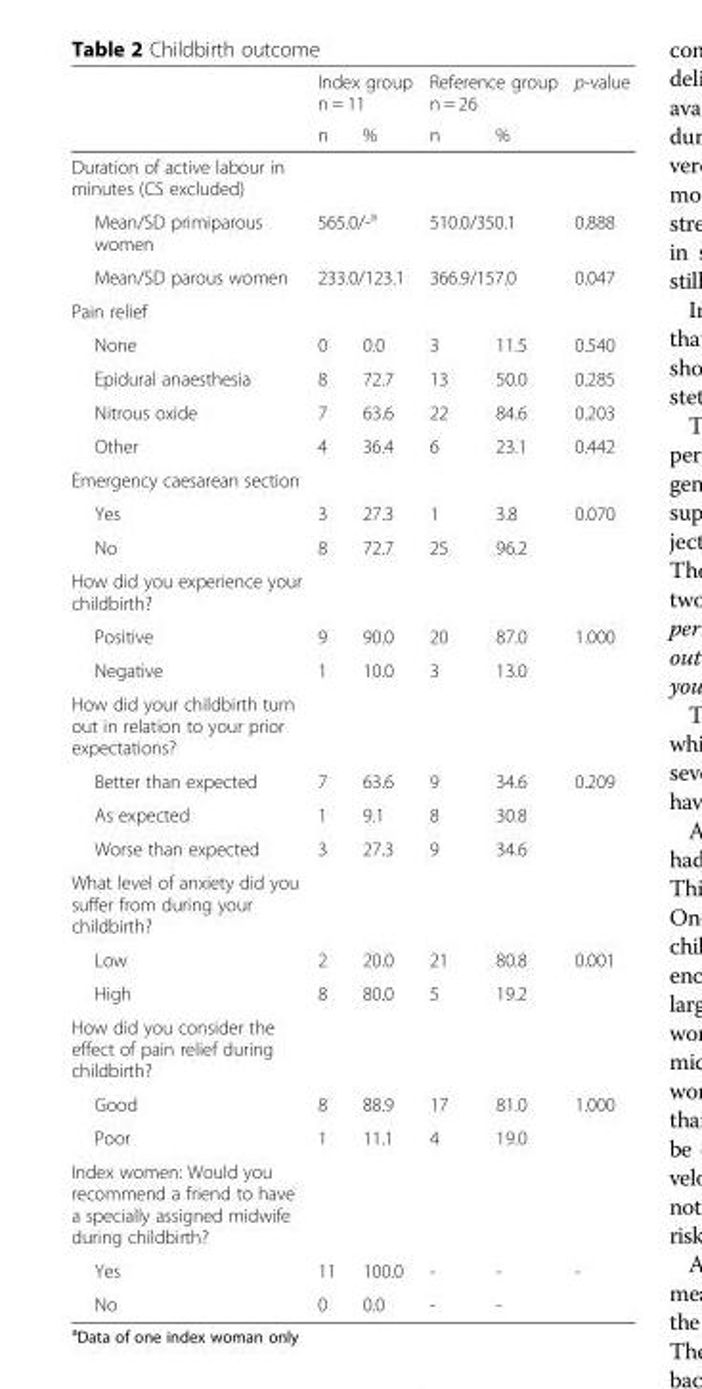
<table><thead><tr><td rowspan="2"></td><td colspan="2">Index group n = 11</td><td colspan="2">Reference group n = 26</td><td rowspan="2">p-value</td></tr><tr><td>n</td><td>%</td><td>n</td><td>%</td></tr></thead><tbody><tr><td colspan="6">Duration of active labour in minutes (CS excluded)</td></tr><tr><td>Mean/SD primiparous women</td><td colspan="2">565.0/-<sup>a</sup></td><td colspan="2">510.0/350.1</td><td>0.888</td></tr><tr><td>Mean/SD parous women</td><td colspan="2">233.0/123.1</td><td colspan="2">366.9/157.0</td><td>0.047</td></tr><tr><td colspan="6">Pain relief</td></tr><tr><td>None</td><td>0</td><td>0.0</td><td>3</td><td>11.5</td><td>0.540</td></tr><tr><td>Epidural anaesthesia</td><td>8</td><td>72.7</td><td>13</td><td>50.0</td><td>0.285</td></tr><tr><td>Nitrous oxide</td><td>7</td><td>63.6</td><td>22</td><td>84.6</td><td>0.203</td></tr><tr><td>Other</td><td>4</td><td>36.4</td><td>6</td><td>23.1</td><td>0.442</td></tr><tr><td colspan="6">Emergency caesarean section</td></tr><tr><td>Yes</td><td>3</td><td>27.3</td><td>1</td><td>3.8</td><td>0.070</td></tr><tr><td>No</td><td>8</td><td>72.7</td><td>25</td><td>96.2</td><td></td></tr><tr><td colspan="6">How did you experience your childbirth?</td></tr><tr><td>Positive</td><td>9</td><td>90.0</td><td>20</td><td>87.0</td><td>1.000</td></tr><tr><td>Negative</td><td>1</td><td>10.0</td><td>3</td><td>13.0</td><td></td></tr><tr><td colspan="6">How did your childbirth turn out in relation to your prior expectations?</td></tr><tr><td>Better than expected</td><td>7</td><td>63.6</td><td>9</td><td>34.6</td><td>0.209</td></tr><tr><td>As expected</td><td>1</td><td>9.1</td><td>8</td><td>30.8</td><td></td></tr><tr><td>Worse than expected</td><td>3</td><td>27.3</td><td>9</td><td>34.6</td><td></td></tr><tr><td colspan="6">What level of anxiety did you suffer from during your childbirth?</td></tr><tr><td>Low</td><td>2</td><td>20.0</td><td>21</td><td>80.8</td><td>0.001</td></tr><tr><td>High</td><td>8</td><td>80.0</td><td>5</td><td>19.2</td><td></td></tr><tr><td colspan="6">How did you consider the effect of pain relief during childbirth?</td></tr><tr><td>Good</td><td>8</td><td>88.9</td><td>17</td><td>81.0</td><td>1.000</td></tr><tr><td>Poor</td><td>1</td><td>11.1</td><td>4</td><td>19.0</td><td></td></tr><tr><td colspan="6">Index women: Would you recommend a friend to have a specially assigned midwife during childbirth?</td></tr><tr><td>Yes</td><td>11</td><td>100.0</td><td>-</td><td>-</td><td>-</td></tr><tr><td>No</td><td>0</td><td>0.0</td><td>-</td><td>-</td><td></td></tr></tbody></table>